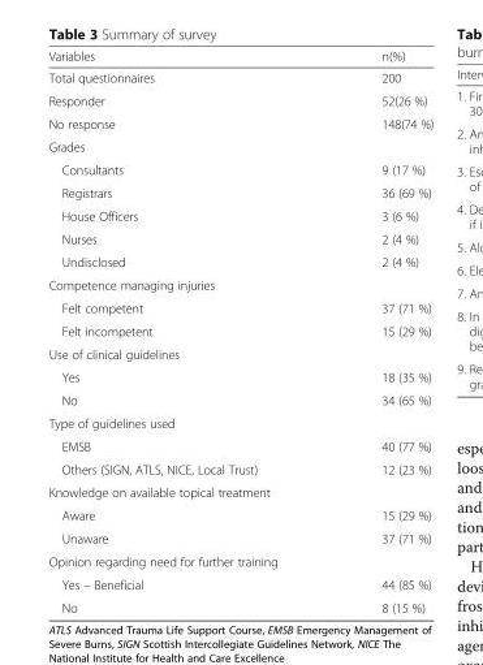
<table><thead><tr><td>Variables</td><td>n(%)</td></tr></thead><tbody><tr><td>Total questionnaires</td><td>200</td></tr><tr><td>Responder</td><td>52(26 %)</td></tr><tr><td>No response</td><td>148(74 %)</td></tr><tr><td colspan="2">Grades</td></tr><tr><td>Consultants</td><td>9 (17 %)</td></tr><tr><td>Registrars</td><td>36 (69 %)</td></tr><tr><td>House Officers</td><td>3 (6 %)</td></tr><tr><td>Nurses</td><td>2 (4 %)</td></tr><tr><td>Undisclosed</td><td>2 (4 %)</td></tr><tr><td colspan="2">Competence managing injuries</td></tr><tr><td>Felt competent</td><td>37 (71 %)</td></tr><tr><td>Felt incompetent</td><td>15 (29 %)</td></tr><tr><td colspan="2">Use of clinical guidelines</td></tr><tr><td>Yes</td><td>18 (35 %)</td></tr><tr><td>No</td><td>34 (65 %)</td></tr><tr><td colspan="2">Type of guidelines used</td></tr><tr><td>EMSB</td><td>40 (77 %)</td></tr><tr><td>Others (SIGN, ATLS, NICE, Local Trust)</td><td>12 (23 %)</td></tr><tr><td colspan="2">Knowledge on available topical treatment</td></tr><tr><td>Aware</td><td>15 (29 %)</td></tr><tr><td>Unaware</td><td>37 (71 %)</td></tr><tr><td colspan="2">Opinion regarding need for further training</td></tr><tr><td>Yes – Beneficial</td><td>44 (85 %)</td></tr><tr><td>No</td><td>8 (15 %)</td></tr></tbody></table>